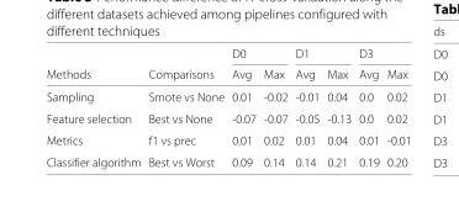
<table><thead><tr><td rowspan="2">Methods</td><td rowspan="2">Comparisons</td><td colspan="2">D0</td><td colspan="2">D1</td><td colspan="2">D3</td></tr><tr><td>Avg</td><td>Max</td><td>Avg</td><td>Max</td><td>Avg</td><td>Max</td></tr></thead><tbody><tr><td>Sampling</td><td>Smote vs None</td><td>0.01</td><td>-0.02</td><td>-0.01</td><td>0.04</td><td>0.0</td><td>0.02</td></tr><tr><td>Feature selection</td><td>Best vs None</td><td>-0.07</td><td>-0.07</td><td>-0.05</td><td>-0.13</td><td>0.0</td><td>0.02</td></tr><tr><td>Metrics</td><td>f1 vs prec</td><td>0.01</td><td>0.02</td><td>0.01</td><td>0.04</td><td>0.01</td><td>-0.01</td></tr><tr><td>Classifier algorithm</td><td>Best vs Worst</td><td>0.09</td><td>0.14</td><td>0.14</td><td>0.21</td><td>0.19</td><td>0.20</td></tr></tbody></table>